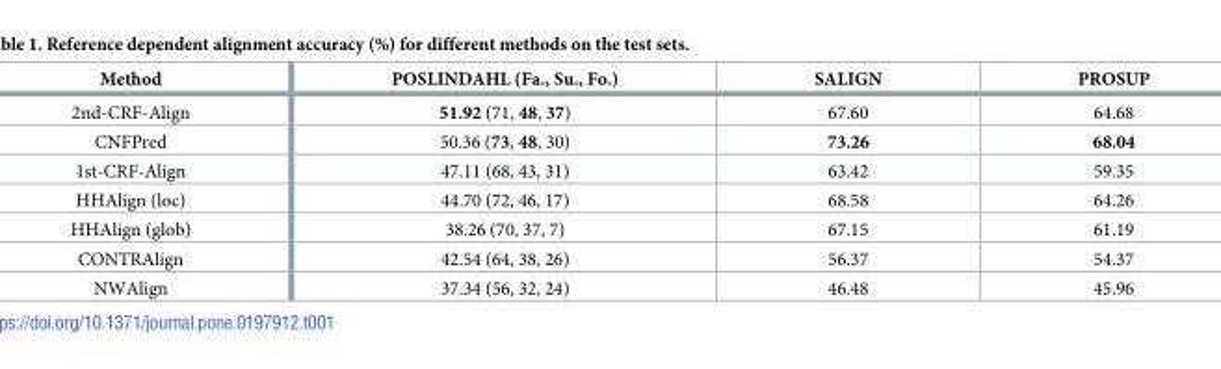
<table><thead><tr><td>Method</td><td>POSLINDAHL (Fa., Su., Fo.)</td><td>SALIGN</td><td>PROSUP</td></tr></thead><tbody><tr><td>2nd-CRF-Align</td><td>51.92 (71, 48, 37)</td><td>67.60</td><td>64.68</td></tr><tr><td>CNFPred</td><td>50.36 (73, 48, 30)</td><td>73.26</td><td>68.04</td></tr><tr><td>1st-CRF-Align</td><td>47.11 (68, 43, 31)</td><td>63.42</td><td>59.35</td></tr><tr><td>HHAlign (loc)</td><td>44.70 (72, 46, 17)</td><td>68.58</td><td>64.26</td></tr><tr><td>HHAlign (glob)</td><td>38.26 (70, 37, 7)</td><td>67.15</td><td>61.19</td></tr><tr><td>CONTRAlign</td><td>42.54 (64, 38, 26)</td><td>56.37</td><td>54.37</td></tr><tr><td>NWAlign</td><td>37.34 (56, 32, 24)</td><td>46.48</td><td>45.96</td></tr></tbody></table>